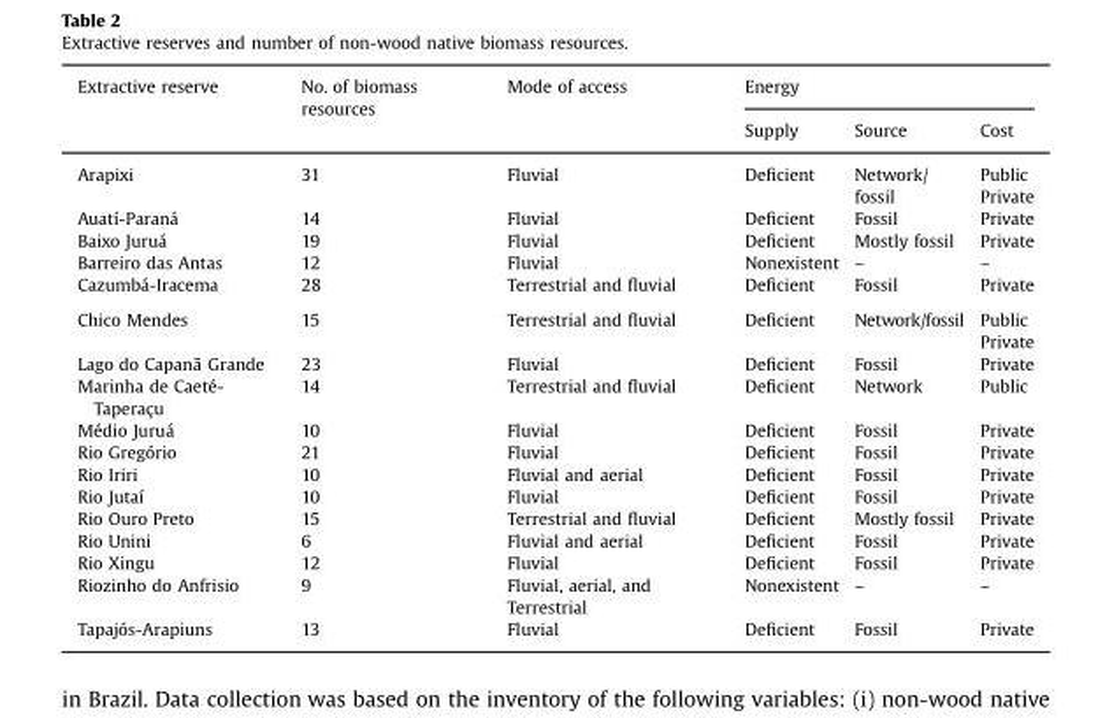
<table><thead><tr><td rowspan="2">Extractive reserve</td><td rowspan="2">No. of biomass resources</td><td rowspan="2">Mode of access</td><td colspan="3">Energy</td></tr><tr><td>Supply</td><td>Source</td><td>Cost</td></tr></thead><tbody><tr><td rowspan="2">Arapixi</td><td rowspan="2">31</td><td rowspan="2">Fluvial</td><td rowspan="2">Deficient</td><td rowspan="2">Network/ fossil</td><td>Public</td></tr><tr><td>Private</td></tr><tr><td>Auatí-Paraná</td><td>14</td><td>Fluvial</td><td>Deficient</td><td>Fossil</td><td>Private</td></tr><tr><td>Baixo Juruá</td><td>19</td><td>Fluvial</td><td>Deficient</td><td>Mostly fossil</td><td>Private</td></tr><tr><td>Barreiro das Antas</td><td>12</td><td>Fluvial</td><td>Nonexistent</td><td>–</td><td>–</td></tr><tr><td>Cazumbá-Iracema</td><td>28</td><td>Terrestrial and fluvial</td><td>Deficient</td><td>Fossil</td><td>Private</td></tr><tr><td rowspan="2">Chico Mendes</td><td rowspan="2">15</td><td rowspan="2">Terrestrial and fluvial</td><td rowspan="2">Deficient</td><td rowspan="2">Network/fossil</td><td>Public</td></tr><tr><td>Private</td></tr><tr><td>Lago do Capanã Grande</td><td>23</td><td>Fluvial</td><td>Deficient</td><td>Fossil</td><td>Private</td></tr><tr><td>Marinha de Caeté- Taperaçu</td><td>14</td><td>Terrestrial and fluvial</td><td>Deficient</td><td>Network</td><td>Public</td></tr><tr><td>Médio Juruá</td><td>10</td><td>Fluvial</td><td>Deficient</td><td>Fossil</td><td>Private</td></tr><tr><td>Rio Gregório</td><td>21</td><td>Fluvial</td><td>Deficient</td><td>Fossil</td><td>Private</td></tr><tr><td>Rio Iriri</td><td>10</td><td>Fluvial and aerial</td><td>Deficient</td><td>Fossil</td><td>Private</td></tr><tr><td>Rio Jutaí</td><td>10</td><td>Fluvial</td><td>Deficient</td><td>Fossil</td><td>Private</td></tr><tr><td>Rio Ouro Preto</td><td>15</td><td>Terrestrial and fluvial</td><td>Deficient</td><td>Mostly fossil</td><td>Private</td></tr><tr><td>Rio Unini</td><td>6</td><td>Fluvial and aerial</td><td>Deficient</td><td>Fossil</td><td>Private</td></tr><tr><td>Rio Xingu</td><td>12</td><td>Fluvial</td><td>Deficient</td><td>Fossil</td><td>Private</td></tr><tr><td>Riozinho do Anfrisio</td><td>9</td><td>Fluvial, aerial, and Terrestrial</td><td>Nonexistent</td><td>–</td><td>–</td></tr><tr><td>Tapajós-Arapiuns</td><td>13</td><td>Fluvial</td><td>Deficient</td><td>Fossil</td><td>Private</td></tr></tbody></table>